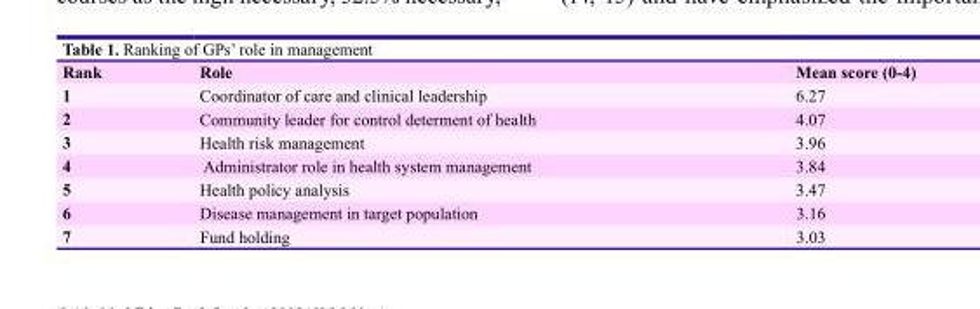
<table><thead><tr><td>Rank</td><td>Role</td><td>Mean score (0-4)</td></tr></thead><tbody><tr><td>1</td><td>Coordinator of care and clinical leadership</td><td>6.27</td></tr><tr><td>2</td><td>Community leader for control determent of health</td><td>4.07</td></tr><tr><td>3</td><td>Health risk management</td><td>3.96</td></tr><tr><td>4</td><td>Administrator role in health system management</td><td>3.84</td></tr><tr><td>5</td><td>Health policy analysis</td><td>3.47</td></tr><tr><td>6</td><td>Disease management in target population</td><td>3.16</td></tr><tr><td>7</td><td>Fund holding</td><td>3.03</td></tr></tbody></table>